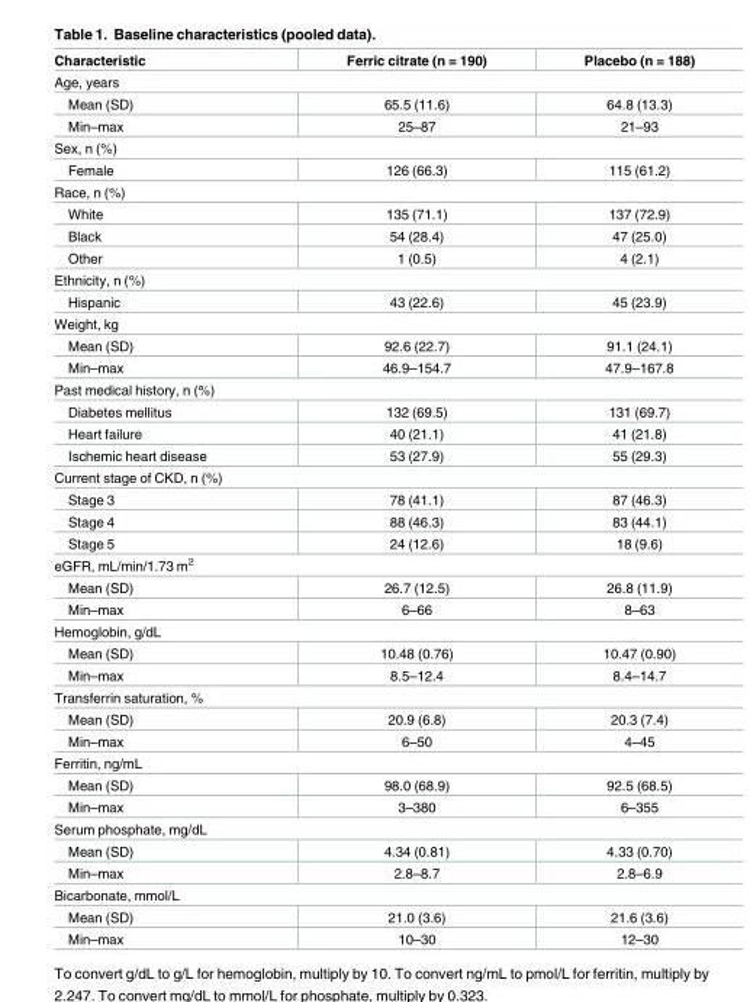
<table><thead><tr><td>Characteristic</td><td>Ferric citrate (n = 190)</td><td>Placebo (n = 188)</td></tr></thead><tbody><tr><td colspan="3">Age, years</td></tr><tr><td>Mean (SD)</td><td>65.5 (11.6)</td><td>64.8 (13.3)</td></tr><tr><td>Min–max</td><td>25–87</td><td>21–93</td></tr><tr><td colspan="3">Sex, n (%)</td></tr><tr><td>Female</td><td>126 (66.3)</td><td>115 (61.2)</td></tr><tr><td colspan="3">Race, n (%)</td></tr><tr><td>White</td><td>135 (71.1)</td><td>137 (72.9)</td></tr><tr><td>Black</td><td>54 (28.4)</td><td>47 (25.0)</td></tr><tr><td>Other</td><td>1 (0.5)</td><td>4 (2.1)</td></tr><tr><td colspan="3">Ethnicity, n (%)</td></tr><tr><td>Hispanic</td><td>43 (22.6)</td><td>45 (23.9)</td></tr><tr><td colspan="3">Weight, kg</td></tr><tr><td>Mean (SD)</td><td>92.6 (22.7)</td><td>91.1 (24.1)</td></tr><tr><td>Min–max</td><td>46.9–154.7</td><td>47.9–167.8</td></tr><tr><td colspan="3">Past medical history, n (%)</td></tr><tr><td>Diabetes mellitus</td><td>132 (69.5)</td><td>131 (69.7)</td></tr><tr><td>Heart failure</td><td>40 (21.1)</td><td>41 (21.8)</td></tr><tr><td>Ischemic heart disease</td><td>53 (27.9)</td><td>55 (29.3)</td></tr><tr><td colspan="3">Current stage of CKD, n (%)</td></tr><tr><td>Stage 3</td><td>78 (41.1)</td><td>87 (46.3)</td></tr><tr><td>Stage 4</td><td>88 (46.3)</td><td>83 (44.1)</td></tr><tr><td>Stage 5</td><td>24 (12.6)</td><td>18 (9.6)</td></tr><tr><td colspan="3">eGFR, mL/min/1.73 m<sup>2</sup></td></tr><tr><td>Mean (SD)</td><td>26.7 (12.5)</td><td>26.8 (11.9)</td></tr><tr><td>Min–max</td><td>6–66</td><td>8–63</td></tr><tr><td colspan="3">Hemoglobin, g/dL</td></tr><tr><td>Mean (SD)</td><td>10.48 (0.76)</td><td>10.47 (0.90)</td></tr><tr><td>Min–max</td><td>8.5–12.4</td><td>8.4–14.7</td></tr><tr><td colspan="3">Transferrin saturation, %</td></tr><tr><td>Mean (SD)</td><td>20.9 (6.8)</td><td>20.3 (7.4)</td></tr><tr><td>Min–max</td><td>6–50</td><td>4–45</td></tr><tr><td colspan="3">Ferritin, ng/mL</td></tr><tr><td>Mean (SD)</td><td>98.0 (68.9)</td><td>92.5 (68.5)</td></tr><tr><td>Min–max</td><td>3–380</td><td>6–355</td></tr><tr><td colspan="3">Serum phosphate, mg/dL</td></tr><tr><td>Mean (SD)</td><td>4.34 (0.81)</td><td>4.33 (0.70)</td></tr><tr><td>Min–max</td><td>2.8–8.7</td><td>2.8–6.9</td></tr><tr><td colspan="3">Bicarbonate, mmol/L</td></tr><tr><td>Mean (SD)</td><td>21.0 (3.6)</td><td>21.6 (3.6)</td></tr><tr><td>Min–max</td><td>10–30</td><td>12–30</td></tr></tbody></table>